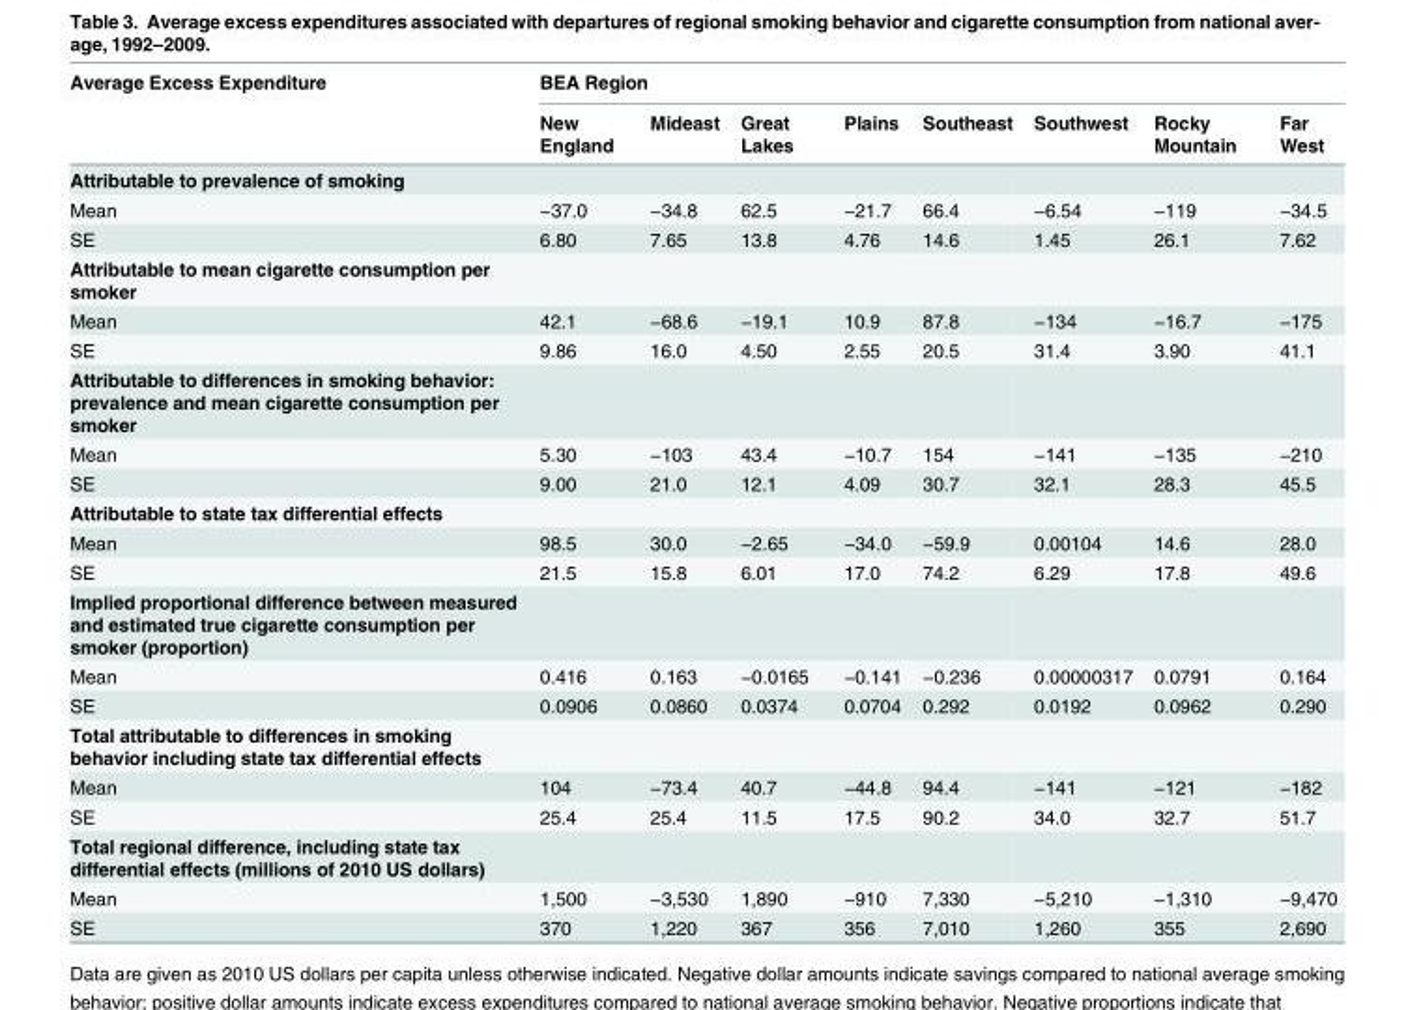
<table><thead><tr><td rowspan="2">Average Excess Expenditure</td><td colspan="8">BEA Region</td></tr><tr><td>New England</td><td>Mideast</td><td>Great Lakes</td><td>Plains</td><td>Southeast</td><td>Southwest</td><td>Rocky Mountain</td><td>Far West</td></tr></thead><tbody><tr><td colspan="9">Attributable to prevalence of smoking</td></tr><tr><td>Mean</td><td>−37.0</td><td>−34.8</td><td>62.5</td><td>−21.7</td><td>66.4</td><td>−6.54</td><td>−119</td><td>−34.5</td></tr><tr><td>SE</td><td>6.80</td><td>7.65</td><td>13.8</td><td>4.76</td><td>14.6</td><td>1.45</td><td>26.1</td><td>7.62</td></tr><tr><td colspan="9">Attributable to mean cigarette consumption per smoker</td></tr><tr><td>Mean</td><td>42.1</td><td>−68.6</td><td>−19.1</td><td>10.9</td><td>87.8</td><td>−134</td><td>−16.7</td><td>−175</td></tr><tr><td>SE</td><td>9.86</td><td>16.0</td><td>4.50</td><td>2.55</td><td>20.5</td><td>31.4</td><td>3.90</td><td>41.1</td></tr><tr><td colspan="9">Attributable to differences in smoking behavior: prevalence and mean cigarette consumption per smoker</td></tr><tr><td>Mean</td><td>5.30</td><td>−103</td><td>43.4</td><td>−10.7</td><td>154</td><td>−141</td><td>−135</td><td>−210</td></tr><tr><td>SE</td><td>9.00</td><td>21.0</td><td>12.1</td><td>4.09</td><td>30.7</td><td>32.1</td><td>28.3</td><td>45.5</td></tr><tr><td colspan="9">Attributable to state tax differential effects</td></tr><tr><td>Mean</td><td>98.5</td><td>30.0</td><td>−2.65</td><td>−34.0</td><td>−59.9</td><td>0.00104</td><td>14.6</td><td>28.0</td></tr><tr><td>SE</td><td>21.5</td><td>15.8</td><td>6.01</td><td>17.0</td><td>74.2</td><td>6.29</td><td>17.8</td><td>49.6</td></tr><tr><td colspan="9">Implied proportional difference between measured and estimated true cigarette consumption per smoker (proportion)</td></tr><tr><td>Mean</td><td>0.416</td><td>0.163</td><td>−0.0165</td><td>−0.141</td><td>−0.236</td><td>0.00000317</td><td>0.0791</td><td>0.164</td></tr><tr><td>SE</td><td>0.0906</td><td>0.0860</td><td>0.0374</td><td>0.0704</td><td>0.292</td><td>0.0192</td><td>0.0962</td><td>0.290</td></tr><tr><td colspan="9">Total attributable to differences in smoking behavior including state tax differential effects</td></tr><tr><td>Mean</td><td>104</td><td>−73.4</td><td>40.7</td><td>−44.8</td><td>94.4</td><td>−141</td><td>−121</td><td>−182</td></tr><tr><td>SE</td><td>25.4</td><td>25.4</td><td>11.5</td><td>17.5</td><td>90.2</td><td>34.0</td><td>32.7</td><td>51.7</td></tr><tr><td colspan="9">Total regional difference, including state tax differential effects (millions of 2010 US dollars)</td></tr><tr><td>Mean</td><td>1,500</td><td>−3,530</td><td>1,890</td><td>−910</td><td>7,330</td><td>−5,210</td><td>−1,310</td><td>−9,470</td></tr><tr><td>SE</td><td>370</td><td>1,220</td><td>367</td><td>356</td><td>7,010</td><td>1,260</td><td>355</td><td>2,690</td></tr></tbody></table>